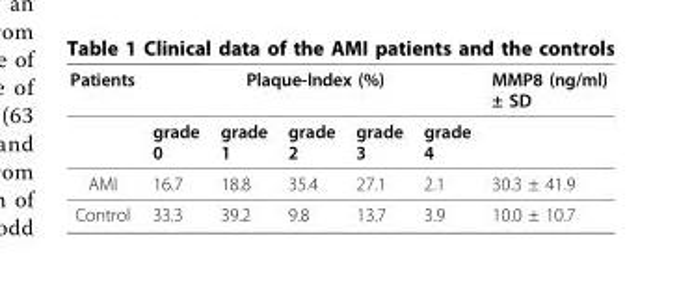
<table><thead><tr><td rowspan="2">Patients</td><td colspan="5">Plaque-Index (%)</td><td rowspan="2">MMP8 (ng/ml) ± SD</td></tr><tr><td>grade 0</td><td>grade 1</td><td>grade 2</td><td>grade 3</td><td>grade 4</td></tr></thead><tbody><tr><td>AMI</td><td>16.7</td><td>18.8</td><td>35.4</td><td>27.1</td><td>2.1</td><td>30.3 ± 41.9</td></tr><tr><td>Control</td><td>33.3</td><td>39.2</td><td>9.8</td><td>13.7</td><td>3.9</td><td>10.0 ± 10.7</td></tr></tbody></table>